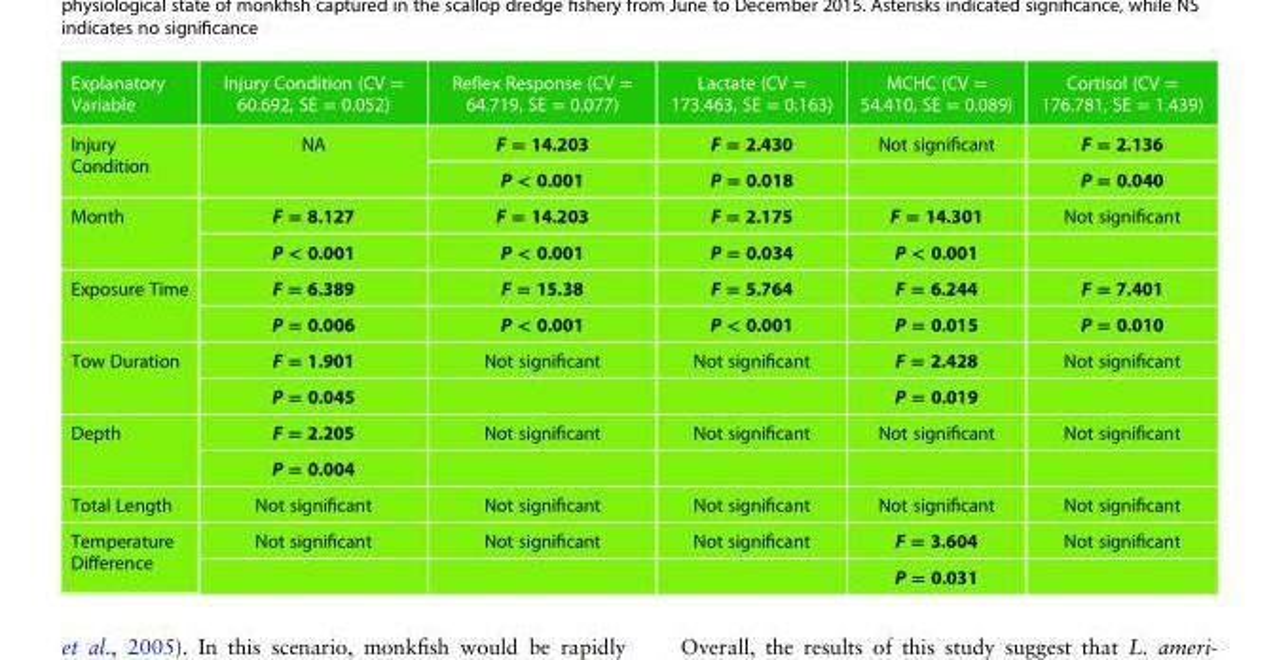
<table><thead><tr><td>Explanatory Variable</td><td>Injury Condition (CV = 60.692, SE = 0.052)</td><td>Reflex Response (CV = 64.719, SE = 0.077)</td><td>Lactate (CV = 173.463, SE = 0.163)</td><td>MCHC (CV = 54.410, SE = 0.089)</td><td>Cortisol (CV = 176.781, SE = 1.439)</td></tr></thead><tbody><tr><td rowspan="2">Injury Condition</td><td rowspan="2">NA</td><td>F = 14.203</td><td>F = 2.430</td><td>Not significant</td><td>F = 2.136</td></tr><tr><td>P &lt; 0.001</td><td>P = 0.018</td><td></td><td>P = 0.040</td></tr><tr><td rowspan="2">Month</td><td>F = 8.127</td><td>F = 14.203</td><td>F = 2.175</td><td>F = 14.301</td><td>Not significant</td></tr><tr><td>P &lt; 0.001</td><td>P &lt; 0.001</td><td>P = 0.034</td><td>P &lt; 0.001</td><td></td></tr><tr><td rowspan="2">Exposure Time</td><td>F = 6.389</td><td>F = 15.38</td><td>F = 5.764</td><td>F = 6.244</td><td>F = 7.401</td></tr><tr><td>P = 0.006</td><td>P &lt; 0.001</td><td>P &lt; 0.001</td><td>P = 0.015</td><td>P = 0.010</td></tr><tr><td rowspan="2">Tow Duration</td><td>F = 1.901</td><td>Not significant</td><td>Not significant</td><td>F = 2.428</td><td>Not significant</td></tr><tr><td>P = 0.045</td><td></td><td></td><td>P = 0.019</td><td></td></tr><tr><td rowspan="2">Depth</td><td>F = 2.205</td><td>Not significant</td><td>Not significant</td><td>Not significant</td><td>Not significant</td></tr><tr><td>P = 0.004</td><td></td><td></td><td></td><td></td></tr><tr><td>Total Length</td><td>Not significant</td><td>Not significant</td><td>Not significant</td><td>Not significant</td><td>Not significant</td></tr><tr><td rowspan="2">Temperature Difference</td><td>Not significant</td><td>Not significant</td><td>Not significant</td><td>F = 3.604</td><td>Not significant</td></tr><tr><td></td><td></td><td></td><td>P = 0.031</td><td></td></tr></tbody></table>